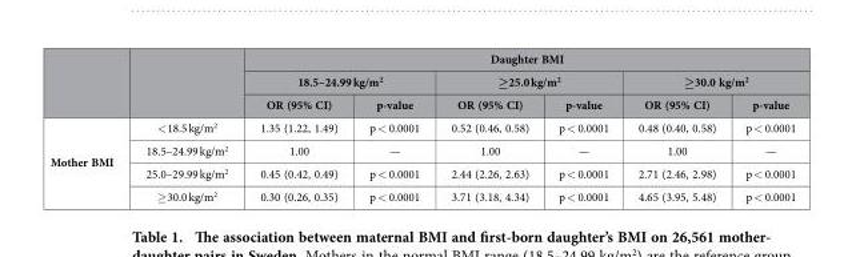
<table><thead><tr><td rowspan="3"></td><td rowspan="3"></td><td colspan="6">Daughter BMI</td></tr><tr><td colspan="2">18.5–24.99 kg/m<sup>2</sup></td><td colspan="2">≥25.0 kg/m<sup>2</sup></td><td colspan="2">≥30.0 kg/m<sup>2</sup></td></tr><tr><td>OR (95% CI)</td><td>p-value</td><td>OR (95% CI)</td><td>p-value</td><td>OR (95% CI)</td><td>p-value</td></tr></thead><tbody><tr><td rowspan="4">Mother BMI</td><td>&lt; 18.5 kg/m<sup>2</sup></td><td>1.35 (1.22, 1.49)</td><td>p &lt; 0.0001</td><td>0.52 (0.46, 0.58)</td><td>p &lt; 0.0001</td><td>0.48 (0.40, 0.58)</td><td>p &lt; 0.0001</td></tr><tr><td>18.5–24.99 kg/m<sup>2</sup></td><td>1.00</td><td>—</td><td>1.00</td><td>—</td><td>1.00</td><td>—</td></tr><tr><td>25.0–29.99 kg/m<sup>2</sup></td><td>0.45 (0.42, 0.49)</td><td>p &lt; 0.0001</td><td>2.44 (2.26, 2.63)</td><td>p &lt; 0.0001</td><td>2.71 (2.46, 2.98)</td><td>p &lt; 0.0001</td></tr><tr><td>≥ 30.0 kg/m<sup>2</sup></td><td>0.30 (0.26, 0.35)</td><td>p &lt; 0.0001</td><td>3.71 (3.18, 4.34)</td><td>p &lt; 0.0001</td><td>4.65 (3.95, 5.48)</td><td>p &lt; 0.0001</td></tr></tbody></table>